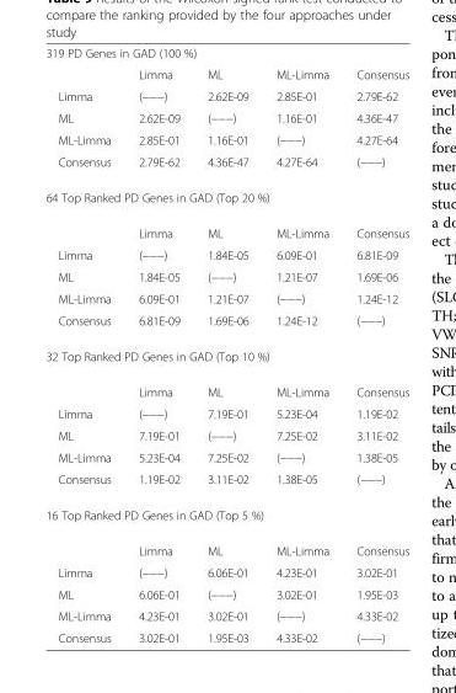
<table><tbody><tr><td colspan="5">319 PD Genes in GAD (100 %)</td></tr><tr><td></td><td>Limma</td><td>ML</td><td>ML-Limma</td><td>Consensus</td></tr><tr><td>Limma</td><td>(−−−)</td><td>2.62E-09</td><td>2.85E-01</td><td>2.79E-62</td></tr><tr><td>ML</td><td>2.62E-09</td><td>(−−−)</td><td>1.16E-01</td><td>4.36E-47</td></tr><tr><td>ML-Limma</td><td>2.85E-01</td><td>1.16E-01</td><td>(−−−)</td><td>4.27E-64</td></tr><tr><td>Consensus</td><td>2.79E-62</td><td>4.36E-47</td><td>4.27E-64</td><td>(−−−)</td></tr><tr><td colspan="5">64 Top Ranked PD Genes in GAD (Top 20 %)</td></tr><tr><td></td><td>Limma</td><td>ML</td><td>ML-Limma</td><td>Consensus</td></tr><tr><td>Limma</td><td>(−−−)</td><td>1.84E-05</td><td>6.09E-01</td><td>6.81E-09</td></tr><tr><td>ML</td><td>1.84E-05</td><td>(−−−)</td><td>1.21E-07</td><td>1.69E-06</td></tr><tr><td>ML-Limma</td><td>6.09E-01</td><td>1.21E-07</td><td>(−−−)</td><td>1.24E-12</td></tr><tr><td>Consensus</td><td>6.81E-09</td><td>1.69E-06</td><td>1.24E-12</td><td>(−−−)</td></tr><tr><td colspan="5">32 Top Ranked PD Genes in GAD (Top 10 %)</td></tr><tr><td></td><td>Limma</td><td>ML</td><td>ML-Limma</td><td>Consensus</td></tr><tr><td>Limma</td><td>(−−−)</td><td>7.19E-01</td><td>5.23E-04</td><td>1.19E-02</td></tr><tr><td>ML</td><td>7.19E-01</td><td>(−−−)</td><td>7.25E-02</td><td>3.11E-02</td></tr><tr><td>ML-Limma</td><td>5.23E-04</td><td>7.25E-02</td><td>(−−−)</td><td>1.38E-05</td></tr><tr><td>Consensus</td><td>1.19E-02</td><td>3.11E-02</td><td>1.38E-05</td><td>(−−−)</td></tr><tr><td colspan="5">16 Top Ranked PD Genes in GAD (Top 5 %)</td></tr><tr><td></td><td>Limma</td><td>ML</td><td>ML-Limma</td><td>Consensus</td></tr><tr><td>Limma</td><td>(−−−)</td><td>6.06E-01</td><td>4.23E-01</td><td>3.02E-01</td></tr><tr><td>ML</td><td>6.06E-01</td><td>(−−−)</td><td>3.02E-01</td><td>1.95E-03</td></tr><tr><td>ML-Limma</td><td>4.23E-01</td><td>3.02E-01</td><td>(−−−)</td><td>4.33E-02</td></tr><tr><td>Consensus</td><td>3.02E-01</td><td>1.95E-03</td><td>4.33E-02</td><td>(−−−)</td></tr></tbody></table>